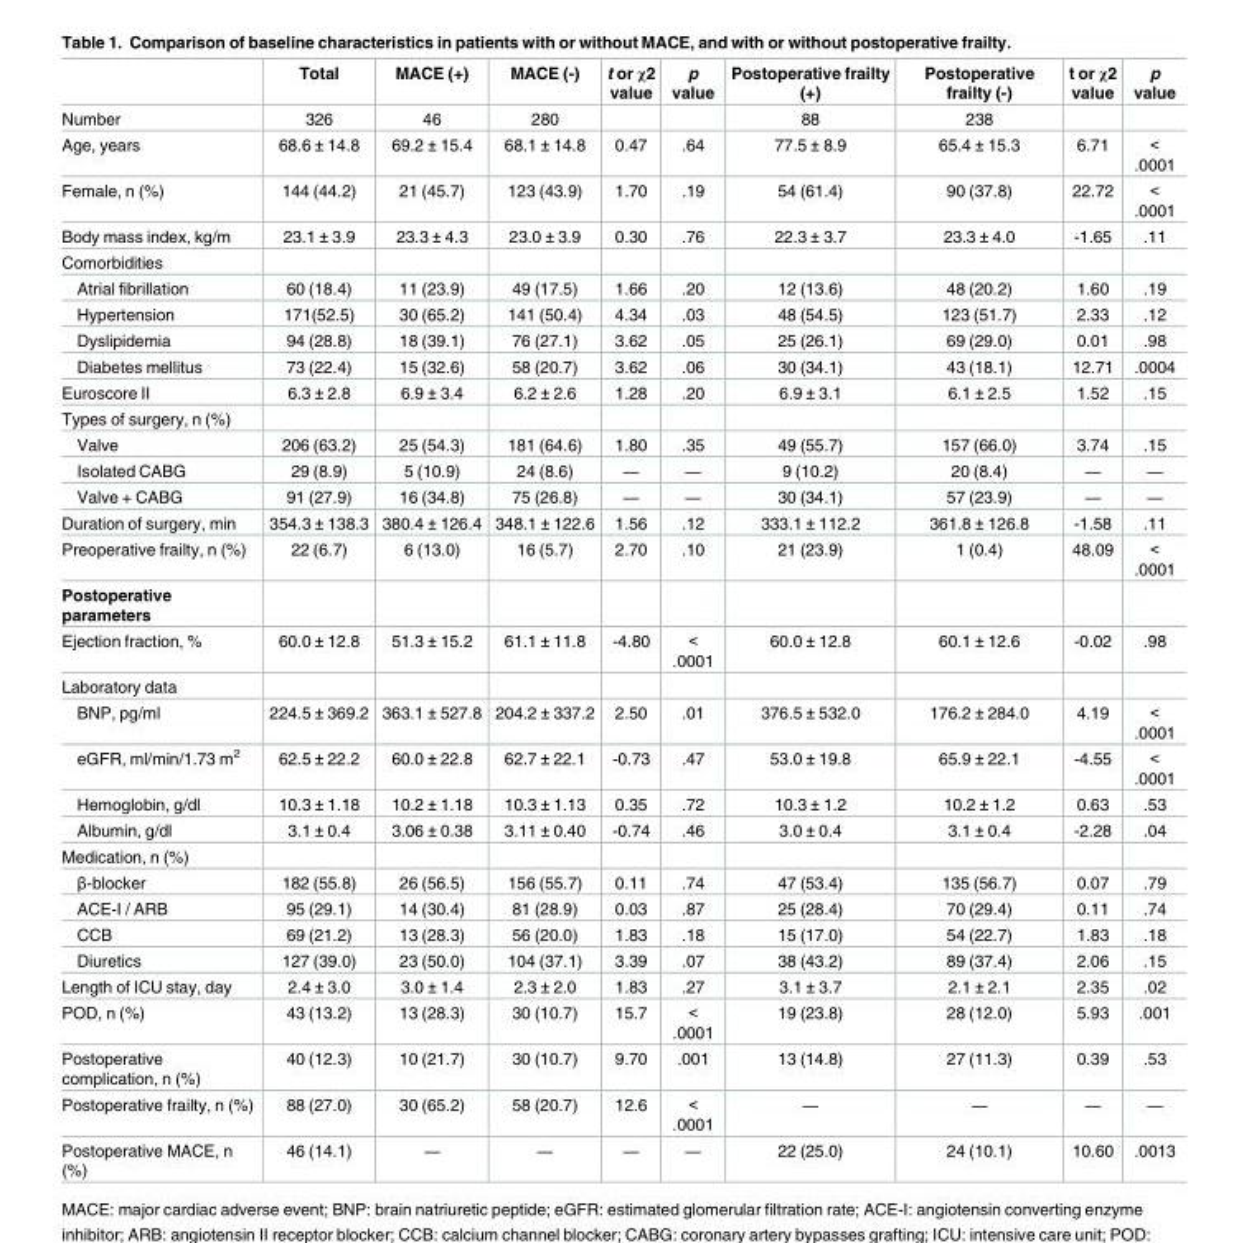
<table><thead><tr><td></td><td>Total</td><td>MACE (+)</td><td>MACE (-)</td><td>t or χ2 value</td><td>p value</td><td>Postoperative frailty (+)</td><td>Postoperative frailty (-)</td><td>t or χ2 value</td><td>p value</td></tr></thead><tbody><tr><td>Number</td><td>326</td><td>46</td><td>280</td><td></td><td></td><td>88</td><td>238</td><td></td><td></td></tr><tr><td>Age, years</td><td>68.6 ± 14.8</td><td>69.2 ± 15.4</td><td>68.1 ± 14.8</td><td>0.47</td><td>.64</td><td>77.5 ± 8.9</td><td>65.4 ± 15.3</td><td>6.71</td><td>&lt; .0001</td></tr><tr><td>Female, n (%)</td><td>144 (44.2)</td><td>21 (45.7)</td><td>123 (43.9)</td><td>1.70</td><td>.19</td><td>54 (61.4)</td><td>90 (37.8)</td><td>22.72</td><td>&lt; .0001</td></tr><tr><td>Body mass index, kg/m</td><td>23.1 ± 3.9</td><td>23.3 ± 4.3</td><td>23.0 ± 3.9</td><td>0.30</td><td>.76</td><td>22.3 ± 3.7</td><td>23.3 ± 4.0</td><td>-1.65</td><td>.11</td></tr><tr><td colspan="10">Comorbidities</td></tr><tr><td>Atrial fibrillation</td><td>60 (18.4)</td><td>11 (23.9)</td><td>49 (17.5)</td><td>1.66</td><td>.20</td><td>12 (13.6)</td><td>48 (20.2)</td><td>1.60</td><td>.19</td></tr><tr><td>Hypertension</td><td>171(52.5)</td><td>30 (65.2)</td><td>141 (50.4)</td><td>4.34</td><td>.03</td><td>48 (54.5)</td><td>123 (51.7)</td><td>2.33</td><td>.12</td></tr><tr><td>Dyslipidemia</td><td>94 (28.8)</td><td>18 (39.1)</td><td>76 (27.1)</td><td>3.62</td><td>.05</td><td>25 (26.1)</td><td>69 (29.0)</td><td>0.01</td><td>.98</td></tr><tr><td>Diabetes mellitus</td><td>73 (22.4)</td><td>15 (32.6)</td><td>58 (20.7)</td><td>3.62</td><td>.06</td><td>30 (34.1)</td><td>43 (18.1)</td><td>12.71</td><td>.0004</td></tr><tr><td>Euroscore II</td><td>6.3 ± 2.8</td><td>6.9 ± 3.4</td><td>6.2 ± 2.6</td><td>1.28</td><td>.20</td><td>6.9 ± 3.1</td><td>6.1 ± 2.5</td><td>1.52</td><td>.15</td></tr><tr><td colspan="10">Types of surgery, n (%)</td></tr><tr><td>Valve</td><td>206 (63.2)</td><td>25 (54.3)</td><td>181 (64.6)</td><td>1.80</td><td>.35</td><td>49 (55.7)</td><td>157 (66.0)</td><td>3.74</td><td>.15</td></tr><tr><td>Isolated CABG</td><td>29 (8.9)</td><td>5 (10.9)</td><td>24 (8.6)</td><td>―</td><td>―</td><td>9 (10.2)</td><td>20 (8.4)</td><td>―</td><td>―</td></tr><tr><td>Valve + CABG</td><td>91 (27.9)</td><td>16 (34.8)</td><td>75 (26.8)</td><td>―</td><td>―</td><td>30 (34.1)</td><td>57 (23.9)</td><td>―</td><td>―</td></tr><tr><td>Duration of surgery, min</td><td>354.3 ± 138.3</td><td>380.4 ± 126.4</td><td>348.1 ± 122.6</td><td>1.56</td><td>.12</td><td>333.1 ± 112.2</td><td>361.8 ± 126.8</td><td>-1.58</td><td>.11</td></tr><tr><td>Preoperative frailty, n (%)</td><td>22 (6.7)</td><td>6 (13.0)</td><td>16 (5.7)</td><td>2.70</td><td>.10</td><td>21 (23.9)</td><td>1 (0.4)</td><td>48.09</td><td>&lt; .0001</td></tr><tr><td colspan="10">Postoperative parameters</td></tr><tr><td>Ejection fraction, %</td><td>60.0 ± 12.8</td><td>51.3 ± 15.2</td><td>61.1 ± 11.8</td><td>-4.80</td><td>&lt; .0001</td><td>60.0 ± 12.8</td><td>60.1 ± 12.6</td><td>-0.02</td><td>.98</td></tr><tr><td colspan="10">Laboratory data</td></tr><tr><td>BNP, pg/ml</td><td>224.5 ± 369.2</td><td>363.1 ± 527.8</td><td>204.2 ± 337.2</td><td>2.50</td><td>.01</td><td>376.5 ± 532.0</td><td>176.2 ± 284.0</td><td>4.19</td><td>&lt; .0001</td></tr><tr><td>eGFR, ml/min/1.73 m<sup>2</sup></td><td>62.5 ± 22.2</td><td>60.0 ± 22.8</td><td>62.7 ± 22.1</td><td>-0.73</td><td>.47</td><td>53.0 ± 19.8</td><td>65.9 ± 22.1</td><td>-4.55</td><td>&lt; .0001</td></tr><tr><td>Hemoglobin, g/dl</td><td>10.3 ± 1.18</td><td>10.2 ± 1.18</td><td>10.3 ± 1.13</td><td>0.35</td><td>.72</td><td>10.3 ± 1.2</td><td>10.2 ± 1.2</td><td>0.63</td><td>.53</td></tr><tr><td>Albumin, g/dl</td><td>3.1 ± 0.4</td><td>3.06 ± 0.38</td><td>3.11 ± 0.40</td><td>-0.74</td><td>.46</td><td>3.0 ± 0.4</td><td>3.1 ± 0.4</td><td>-2.28</td><td>.04</td></tr><tr><td colspan="10">Medication, n (%)</td></tr><tr><td>β-blocker</td><td>182 (55.8)</td><td>26 (56.5)</td><td>156 (55.7)</td><td>0.11</td><td>.74</td><td>47 (53.4)</td><td>135 (56.7)</td><td>0.07</td><td>.79</td></tr><tr><td>ACE-I / ARB</td><td>95 (29.1)</td><td>14 (30.4)</td><td>81 (28.9)</td><td>0.03</td><td>.87</td><td>25 (28.4)</td><td>70 (29.4)</td><td>0.11</td><td>.74</td></tr><tr><td>CCB</td><td>69 (21.2)</td><td>13 (28.3)</td><td>56 (20.0)</td><td>1.83</td><td>.18</td><td>15 (17.0)</td><td>54 (22.7)</td><td>1.83</td><td>.18</td></tr><tr><td>Diuretics</td><td>127 (39.0)</td><td>23 (50.0)</td><td>104 (37.1)</td><td>3.39</td><td>.07</td><td>38 (43.2)</td><td>89 (37.4)</td><td>2.06</td><td>.15</td></tr><tr><td>Length of ICU stay, day</td><td>2.4 ± 3.0</td><td>3.0 ± 1.4</td><td>2.3 ± 2.0</td><td>1.83</td><td>.27</td><td>3.1 ± 3.7</td><td>2.1 ± 2.1</td><td>2.35</td><td>.02</td></tr><tr><td>POD, n (%)</td><td>43 (13.2)</td><td>13 (28.3)</td><td>30 (10.7)</td><td>15.7</td><td>&lt; .0001</td><td>19 (23.8)</td><td>28 (12.0)</td><td>5.93</td><td>.001</td></tr><tr><td>Postoperative complication, n (%)</td><td>40 (12.3)</td><td>10 (21.7)</td><td>30 (10.7)</td><td>9.70</td><td>.001</td><td>13 (14.8)</td><td>27 (11.3)</td><td>0.39</td><td>.53</td></tr><tr><td>Postoperative frailty, n (%)</td><td>88 (27.0)</td><td>30 (65.2)</td><td>58 (20.7)</td><td>12.6</td><td>&lt; .0001</td><td>―</td><td>―</td><td>―</td><td>―</td></tr><tr><td>Postoperative MACE, n (%)</td><td>46 (14.1)</td><td>―</td><td>―</td><td>―</td><td>―</td><td>22 (25.0)</td><td>24 (10.1)</td><td>10.60</td><td>.0013</td></tr></tbody></table>